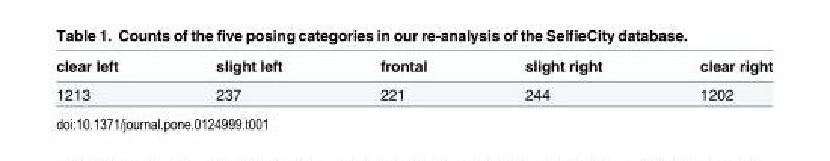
<table><thead><tr><td>clear left</td><td>slight left</td><td>frontal</td><td>slight right</td><td>clear right</td></tr></thead><tbody><tr><td>1213</td><td>237</td><td>221</td><td>244</td><td>1202</td></tr></tbody></table>